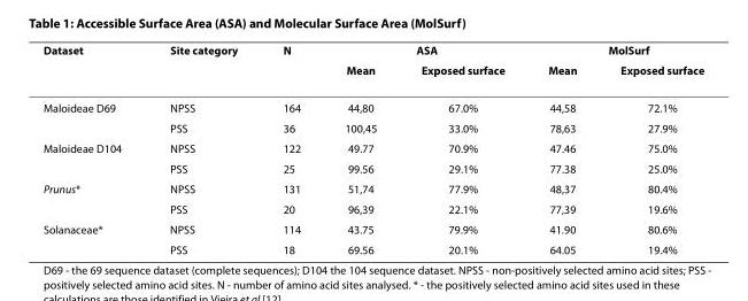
<table><thead><tr><td rowspan="2">Dataset</td><td rowspan="2">Site category</td><td rowspan="2">N</td><td colspan="2">ASA</td><td colspan="2">MolSurf</td></tr><tr><td>Mean</td><td>Exposed surface</td><td>Mean</td><td>Exposed surface</td></tr></thead><tbody><tr><td rowspan="2">Maloideae D69</td><td>NPSS</td><td>164</td><td>44,80</td><td>67.0%</td><td>44,58</td><td>72.1%</td></tr><tr><td>PSS</td><td>36</td><td>100,45</td><td>33.0%</td><td>78,63</td><td>27.9%</td></tr><tr><td rowspan="2">Maloideae D104</td><td>NPSS</td><td>122</td><td>49.77</td><td>70.9%</td><td>47.46</td><td>75.0%</td></tr><tr><td>PSS</td><td>25</td><td>99.56</td><td>29.1%</td><td>77.38</td><td>25.0%</td></tr><tr><td rowspan="2">Prunus*</td><td>NPSS</td><td>131</td><td>51,74</td><td>77.9%</td><td>48,37</td><td>80.4%</td></tr><tr><td>PSS</td><td>20</td><td>96,39</td><td>22.1%</td><td>77,39</td><td>19.6%</td></tr><tr><td rowspan="2">Solanaceae*</td><td>NPSS</td><td>114</td><td>43.75</td><td>79.9%</td><td>41.90</td><td>80.6%</td></tr><tr><td>PSS</td><td>18</td><td>69.56</td><td>20.1%</td><td>64.05</td><td>19.4%</td></tr></tbody></table>